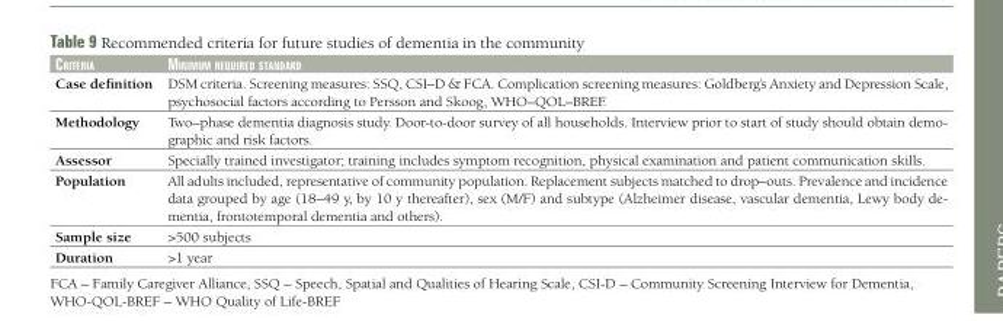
<table><thead><tr><td>Criteria</td><td>miNimum required staNdard</td></tr></thead><tbody><tr><td>Case definition</td><td>DSM criteria. Screening measures: SSQ, CSI–D &amp; FCA. Complication screening measures: Goldberg’s Anxiety and Depression Scale, psychosocial factors according to Persson and Skoog, WHO–QOL–BREF.</td></tr><tr><td>Methodology</td><td>Two–phase dementia diagnosis study. Door-to-door survey of all households. Interview prior to start of study should obtain demo- graphic and risk factors.</td></tr><tr><td>Assessor</td><td>Specially trained investigator; training includes symptom recognition, physical examination and patient communication skills.</td></tr><tr><td>Population</td><td>All adults included, representative of community population. Replacement subjects matched to drop–outs. Prevalence and incidence data grouped by age (18–49 y, by 10 y thereafter), sex (M/F) and subtype (Alzheimer disease, vascular dementia, Lewy body de- mentia, frontotemporal dementia and others).</td></tr><tr><td>Sample size</td><td>&gt;500 subjects</td></tr><tr><td>Duration</td><td>&gt;1 year</td></tr></tbody></table>